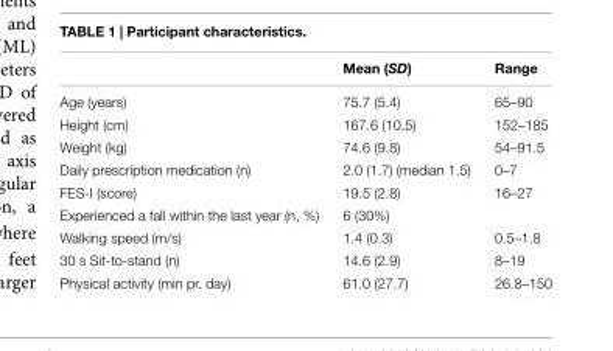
<table><thead><tr><td></td><td>Mean (SD)</td><td>Range</td></tr></thead><tbody><tr><td>Age (years)</td><td>75.7 (5.4)</td><td>65–90</td></tr><tr><td>Height (cm)</td><td>167.6 (10.5)</td><td>152–185</td></tr><tr><td>Weight (kg)</td><td>74.6 (9.8)</td><td>54–91.5</td></tr><tr><td>Daily prescription medication (n)</td><td>2.0 (1.7) (median 1.5)</td><td>0–7</td></tr><tr><td>FES-I (score)</td><td>19.5 (2.8)</td><td>16–27</td></tr><tr><td>Experienced a fall within the last year (n, %)</td><td>6 (30%)</td><td></td></tr><tr><td>Walking speed (m/s)</td><td>1.4 (0.3)</td><td>0.5–1.8</td></tr><tr><td>30 s Sit-to-stand (n)</td><td>14.6 (2.9)</td><td>8–19</td></tr><tr><td>Physical activity (min pr. day)</td><td>61.0 (27.7)</td><td>26.8–150</td></tr></tbody></table>